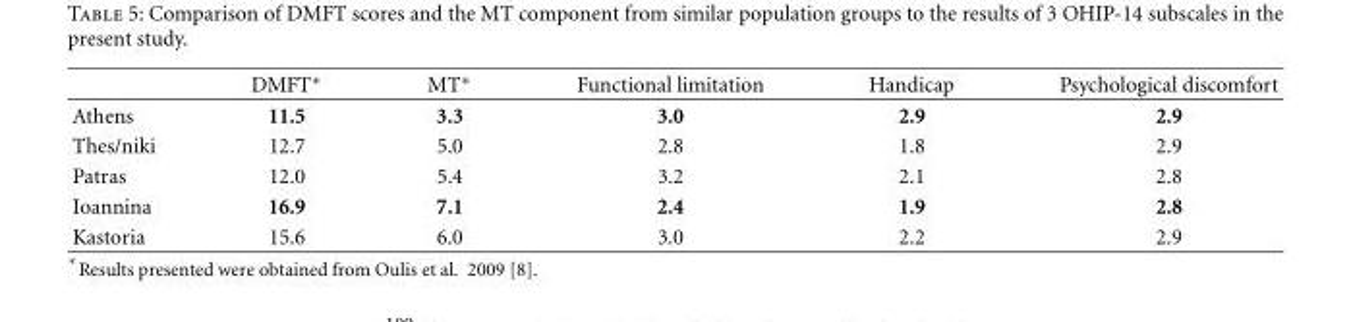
<table><thead><tr><td></td><td>DMFT∗</td><td>MT∗</td><td>Functional limitation</td><td>Handicap</td><td>Psychological discomfort</td></tr></thead><tbody><tr><td>Athens</td><td>11.5</td><td>3.3</td><td>3.0</td><td>2.9</td><td>2.9</td></tr><tr><td>Thes/niki</td><td>12.7</td><td>5.0</td><td>2.8</td><td>1.8</td><td>2.9</td></tr><tr><td>Patras</td><td>12.0</td><td>5.4</td><td>3.2</td><td>2.1</td><td>2.8</td></tr><tr><td>Ioannina</td><td>16.9</td><td>7.1</td><td>2.4</td><td>1.9</td><td>2.8</td></tr><tr><td>Kastoria</td><td>15.6</td><td>6.0</td><td>3.0</td><td>2.2</td><td>2.9</td></tr></tbody></table>